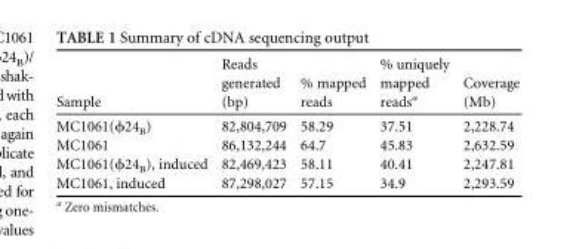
<table><thead><tr><td>Sample</td><td>Reads generated (bp)</td><td>% mapped reads</td><td>% uniquely mapped reads<sup>a</sup></td><td>Coverage (Mb)</td></tr></thead><tbody><tr><td>MC1061(ϕ24<sub>B</sub>)</td><td>82,804,709</td><td>58.29</td><td>37.51</td><td>2,228.74</td></tr><tr><td>MC1061</td><td>86,132,244</td><td>64.7</td><td>45.83</td><td>2,632.59</td></tr><tr><td>MC1061(ϕ24<sub>B</sub>), induced</td><td>82,469,423</td><td>58.11</td><td>40.41</td><td>2,247.81</td></tr><tr><td>MC1061, induced</td><td>87,298,027</td><td>57.15</td><td>34.9</td><td>2,293.59</td></tr></tbody></table>